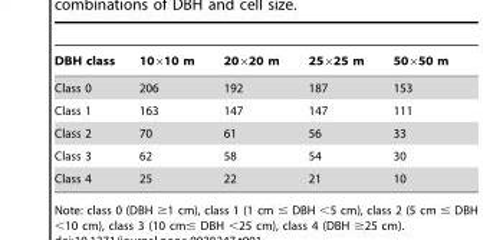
<table><thead><tr><td>DBH class</td><td>10×10 m</td><td>20×20 m</td><td>25×25 m</td><td>50×50 m</td></tr></thead><tbody><tr><td>Class 0</td><td>206</td><td>192</td><td>187</td><td>153</td></tr><tr><td>Class 1</td><td>163</td><td>147</td><td>147</td><td>111</td></tr><tr><td>Class 2</td><td>70</td><td>61</td><td>56</td><td>33</td></tr><tr><td>Class 3</td><td>62</td><td>58</td><td>54</td><td>30</td></tr><tr><td>Class 4</td><td>25</td><td>22</td><td>21</td><td>10</td></tr></tbody></table>